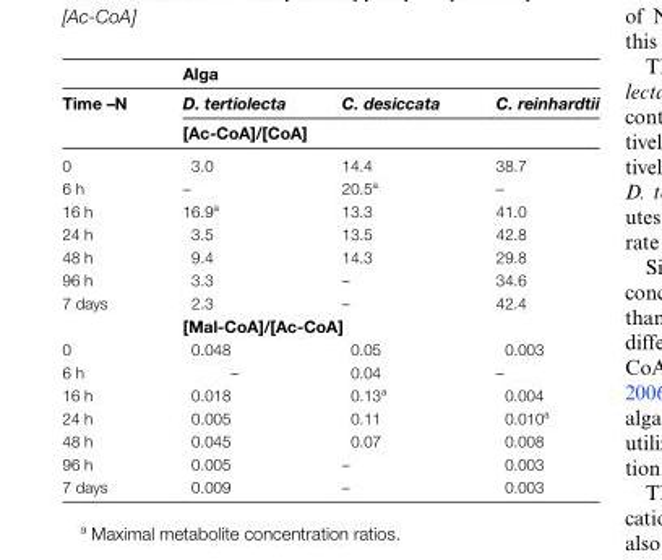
<table><thead><tr><td rowspan="3">Time –N</td><td colspan="3">Alga</td></tr><tr><td>D. tertiolecta</td><td>C. desiccata</td><td>C. reinhardtii</td></tr><tr><td colspan="3">[Ac-CoA]/[CoA]</td></tr></thead><tbody><tr><td>0</td><td>3.0</td><td>14.4</td><td>38.7</td></tr><tr><td>6 h</td><td>–</td><td>20.5<sup>a</sup></td><td>–</td></tr><tr><td>16 h</td><td>16.9<sup>a</sup></td><td>13.3</td><td>41.0</td></tr><tr><td>24 h</td><td>3.5</td><td>13.5</td><td>42.8</td></tr><tr><td>48 h</td><td>9.4</td><td>14.3</td><td>29.8</td></tr><tr><td>96 h</td><td>3.3</td><td>–</td><td>34.6</td></tr><tr><td rowspan="2">7 days</td><td>2.3</td><td>–</td><td>42.4</td></tr><tr><td colspan="3">[Mal-CoA]/[Ac-CoA]</td></tr><tr><td>0</td><td>0.048</td><td>0.05</td><td>0.003</td></tr><tr><td>6 h</td><td>–</td><td>0.04</td><td>–</td></tr><tr><td>16 h</td><td>0.018</td><td>0.13<sup>a</sup></td><td>0.004</td></tr><tr><td>24 h</td><td>0.005</td><td>0.11</td><td>0.010<sup>a</sup></td></tr><tr><td>48 h</td><td>0.045</td><td>0.07</td><td>0.008</td></tr><tr><td>96 h</td><td>0.005</td><td>–</td><td>0.003</td></tr><tr><td>7 days</td><td>0.009</td><td>–</td><td>0.003</td></tr></tbody></table>